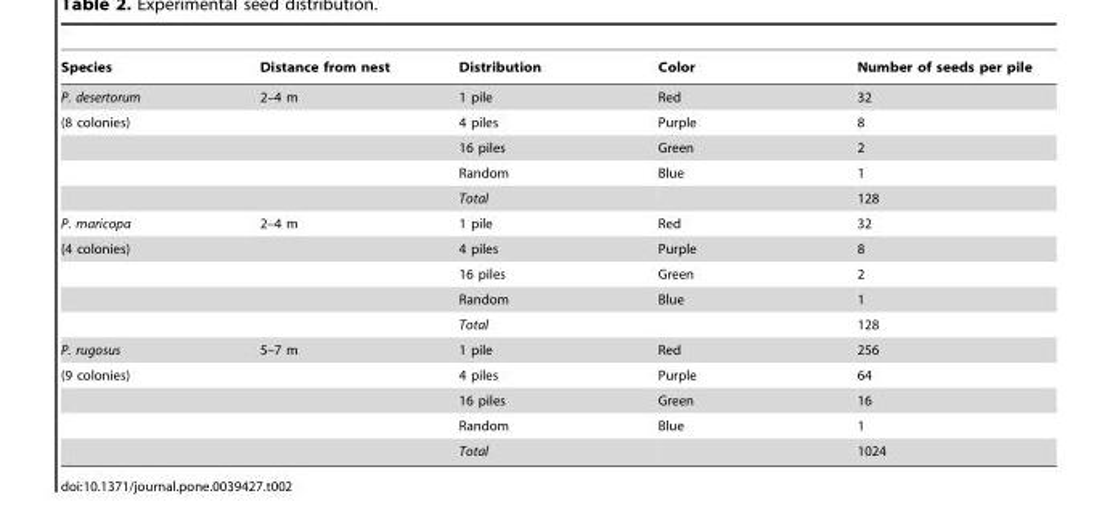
<table><thead><tr><td>Species</td><td>Distance from nest</td><td>Distribution</td><td>Color</td><td>Number of seeds per pile</td></tr></thead><tbody><tr><td>P. desertorum</td><td>2–4 m</td><td>1 pile</td><td>Red</td><td>32</td></tr><tr><td rowspan="4">(8 colonies)</td><td></td><td>4 piles</td><td>Purple</td><td>8</td></tr><tr><td></td><td>16 piles</td><td>Green</td><td>2</td></tr><tr><td></td><td>Random</td><td>Blue</td><td>1</td></tr><tr><td></td><td>Total</td><td></td><td>128</td></tr><tr><td>P. maricopa</td><td>2–4 m</td><td>1 pile</td><td>Red</td><td>32</td></tr><tr><td rowspan="4">(4 colonies)</td><td></td><td>4 piles</td><td>Purple</td><td>8</td></tr><tr><td></td><td>16 piles</td><td>Green</td><td>2</td></tr><tr><td></td><td>Random</td><td>Blue</td><td>1</td></tr><tr><td></td><td>Total</td><td></td><td>128</td></tr><tr><td>P. rugosus</td><td>5–7 m</td><td>1 pile</td><td>Red</td><td>256</td></tr><tr><td rowspan="4">(9 colonies)</td><td></td><td>4 piles</td><td>Purple</td><td>64</td></tr><tr><td></td><td>16 piles</td><td>Green</td><td>16</td></tr><tr><td></td><td>Random</td><td>Blue</td><td>1</td></tr><tr><td></td><td>Total</td><td></td><td>1024</td></tr></tbody></table>